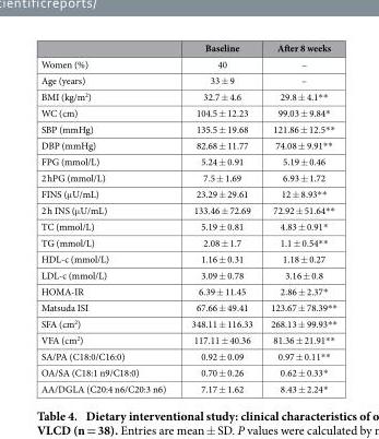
<table><thead><tr><td></td><td>Baseline</td><td>After 8 weeks</td></tr></thead><tbody><tr><td>Women (%)</td><td>40</td><td>–</td></tr><tr><td>Age (years)</td><td>33 ± 9</td><td>–</td></tr><tr><td>BMI (kg/m<sup>2</sup>)</td><td>32.7 ± 4.6</td><td>29.8 ± 4.1* *</td></tr><tr><td>WC (cm)</td><td>104.5 ± 12.23</td><td>99.03 ± 9.84*</td></tr><tr><td>SBP (mmHg)</td><td>135.5 ± 19.68</td><td>121.86 ± 12.5* *</td></tr><tr><td>DBP (mmHg)</td><td>82.68 ± 11.77</td><td>74.08 ± 9.91* *</td></tr><tr><td>FPG (mmol/L)</td><td>5.24 ± 0.91</td><td>5.19 ± 0.46</td></tr><tr><td>2 hPG (mmol/L)</td><td>7.5 ± 1.69</td><td>6.93 ± 1.72</td></tr><tr><td>FINS (μ U/mL)</td><td>23.29 ± 29.61</td><td>12 ± 8.93* *</td></tr><tr><td>2 h INS (μ U/mL)</td><td>133.46 ± 72.69</td><td>72.92 ± 51.64* *</td></tr><tr><td>TC (mmol/L)</td><td>5.19 ± 0.81</td><td>4.83 ± 0.91*</td></tr><tr><td>TG (mmol/L)</td><td>2.08 ± 1.7</td><td>1.1 ± 0.54* *</td></tr><tr><td>HDL-c (mmol/L)</td><td>1.16 ± 0.31</td><td>1.18 ± 0.27</td></tr><tr><td>LDL-c (mmol/L)</td><td>3.09 ± 0.78</td><td>3.16 ± 0.8</td></tr><tr><td>HOMA-IR</td><td>6.39 ± 11.45</td><td>2.86 ± 2.37*</td></tr><tr><td>Matsuda ISI</td><td>67.66 ± 49.41</td><td>123.67 ± 78.39* *</td></tr><tr><td>SFA (cm<sup>2</sup>)</td><td>348.11 ± 116.33</td><td>268.13 ± 99.93* *</td></tr><tr><td>VFA (cm<sup>2</sup>)</td><td>117.11 ± 40.36</td><td>81.36 ± 21.91* *</td></tr><tr><td>SA/PA (C18:0/C16:0)</td><td>0.92 ± 0.09</td><td>0.97 ± 0.11* *</td></tr><tr><td>OA/SA (C18:1 n9/C18:0)</td><td>0.70 ± 0.26</td><td>0.62 ± 0.33*</td></tr><tr><td>AA/DGLA (C20:4 n6/C20:3 n6)</td><td>7.17 ± 1.62</td><td>8.43 ± 2.24*</td></tr></tbody></table>